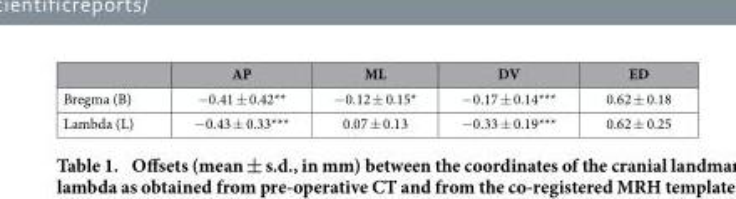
<table><thead><tr><td></td><td>AP</td><td>ML</td><td>DV</td><td>ED</td></tr></thead><tbody><tr><td>Bregma (B)</td><td>− 0.41 ± 0.42**</td><td>− 0.12 ± 0.15*</td><td>− 0.17 ± 0.14***</td><td>0.62 ± 0.18</td></tr><tr><td>Lambda (L)</td><td>− 0.43 ± 0.33***</td><td>0.07 ± 0.13</td><td>− 0.33 ± 0.19***</td><td>0.62 ± 0.25</td></tr></tbody></table>